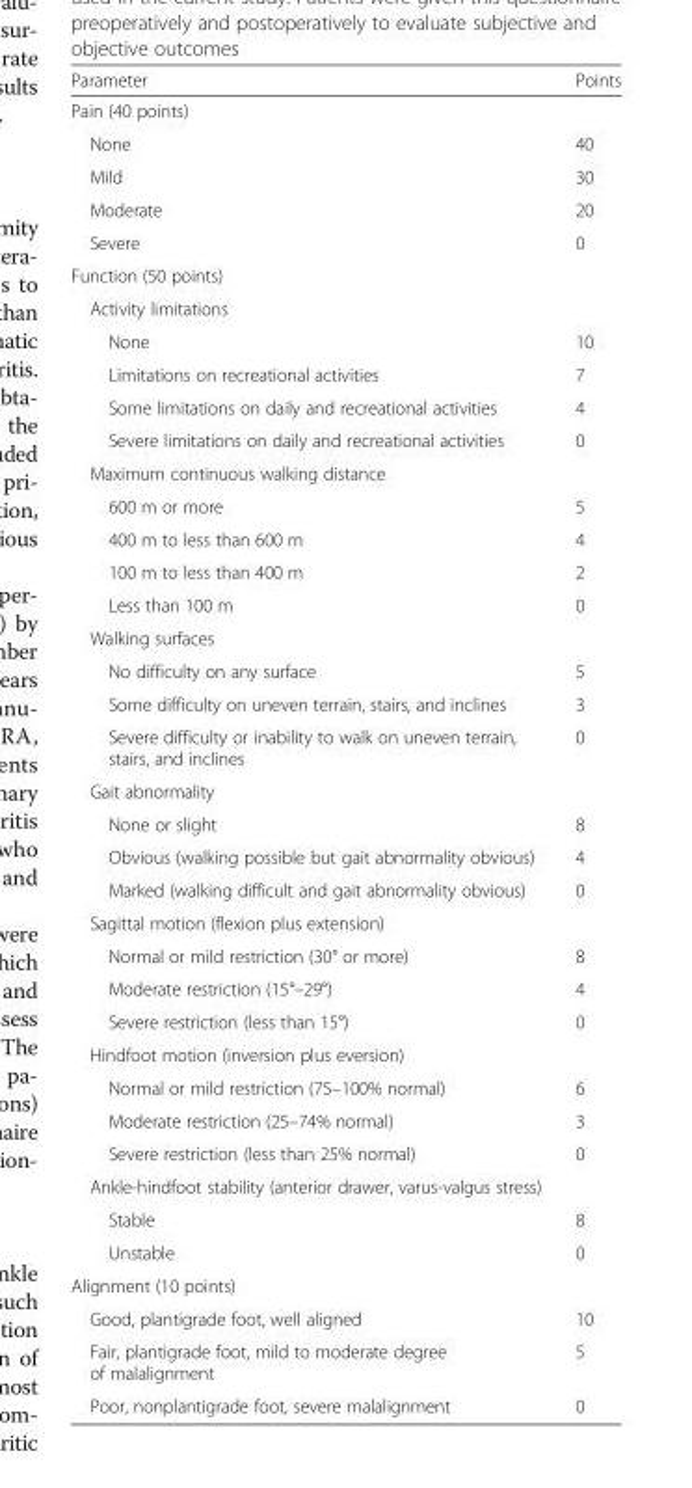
<table><thead><tr><td>Parameter</td><td>Points</td></tr></thead><tbody><tr><td colspan="2">Pain (40 points)</td></tr><tr><td>None</td><td>40</td></tr><tr><td>Mild</td><td>30</td></tr><tr><td>Moderate</td><td>20</td></tr><tr><td>Severe</td><td>0</td></tr><tr><td colspan="2">Function (50 points)</td></tr><tr><td colspan="2">Activity limitations</td></tr><tr><td>None</td><td>10</td></tr><tr><td>Limitations on recreational activities</td><td>7</td></tr><tr><td>Some limitations on daily and recreational activities</td><td>4</td></tr><tr><td>Severe limitations on daily and recreational activities</td><td>0</td></tr><tr><td colspan="2">Maximum continuous walking distance</td></tr><tr><td>600 m or more</td><td>5</td></tr><tr><td>400 m to less than 600 m</td><td>4</td></tr><tr><td>100 m to less than 400 m</td><td>2</td></tr><tr><td>Less than 100 m</td><td>0</td></tr><tr><td colspan="2">Walking surfaces</td></tr><tr><td>No difficulty on any surface</td><td>5</td></tr><tr><td>Some difficulty on uneven terrain, stairs, and inclines</td><td>3</td></tr><tr><td>Severe difficulty or inability to walk on uneven terrain, stairs, and inclines</td><td>0</td></tr><tr><td colspan="2">Gait abnormality</td></tr><tr><td>None or slight</td><td>8</td></tr><tr><td>Obvious (walking possible but gait abnormality obvious)</td><td>4</td></tr><tr><td>Marked (walking difficult and gait abnormality obvious)</td><td>0</td></tr><tr><td colspan="2">Sagittal motion (flexion plus extension)</td></tr><tr><td>Normal or mild restriction (30° or more)</td><td>8</td></tr><tr><td>Moderate restriction (15°–29°)</td><td>4</td></tr><tr><td>Severe restriction (less than 15°)</td><td>0</td></tr><tr><td colspan="2">Hindfoot motion (inversion plus eversion)</td></tr><tr><td>Normal or mild restriction (75–100% normal)</td><td>6</td></tr><tr><td>Moderate restriction (25–74% normal)</td><td>3</td></tr><tr><td>Severe restriction (less than 25% normal)</td><td>0</td></tr><tr><td colspan="2">Ankle-hindfoot stability (anterior drawer, varus-valgus stress)</td></tr><tr><td>Stable</td><td>8</td></tr><tr><td>Unstable</td><td>0</td></tr><tr><td colspan="2">Alignment (10 points)</td></tr><tr><td>Good, plantigrade foot, well aligned</td><td>10</td></tr><tr><td>Fair, plantigrade foot, mild to moderate degree of malalignment</td><td>5</td></tr><tr><td>Poor, nonplantigrade foot, severe malalignment</td><td>0</td></tr></tbody></table>